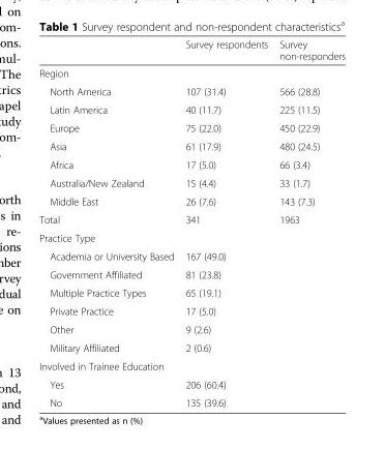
<table><thead><tr><td></td><td>Survey respondents</td><td>Survey non-responders</td></tr></thead><tbody><tr><td colspan="3">Region</td></tr><tr><td>North America</td><td>107 (31.4)</td><td>566 (28.8)</td></tr><tr><td>Latin America</td><td>40 (11.7)</td><td>225 (11.5)</td></tr><tr><td>Europe</td><td>75 (22.0)</td><td>450 (22.9)</td></tr><tr><td>Asia</td><td>61 (17.9)</td><td>480 (24.5)</td></tr><tr><td>Africa</td><td>17 (5.0)</td><td>66 (3.4)</td></tr><tr><td>Australia/New Zealand</td><td>15 (4.4)</td><td>33 (1.7)</td></tr><tr><td>Middle East</td><td>26 (7.6)</td><td>143 (7.3)</td></tr><tr><td>Total</td><td>341</td><td>1963</td></tr><tr><td colspan="3">Practice Type</td></tr><tr><td>Academia or University Based</td><td>167 (49.0)</td><td></td></tr><tr><td>Government Affiliated</td><td>81 (23.8)</td><td></td></tr><tr><td>Multiple Practice Types</td><td>65 (19.1)</td><td></td></tr><tr><td>Private Practice</td><td>17 (5.0)</td><td></td></tr><tr><td>Other</td><td>9 (2.6)</td><td></td></tr><tr><td>Military Affiliated</td><td>2 (0.6)</td><td></td></tr><tr><td colspan="3">Involved in Trainee Education</td></tr><tr><td>Yes</td><td>206 (60.4)</td><td></td></tr><tr><td>No</td><td>135 (39.6)</td><td></td></tr></tbody></table>